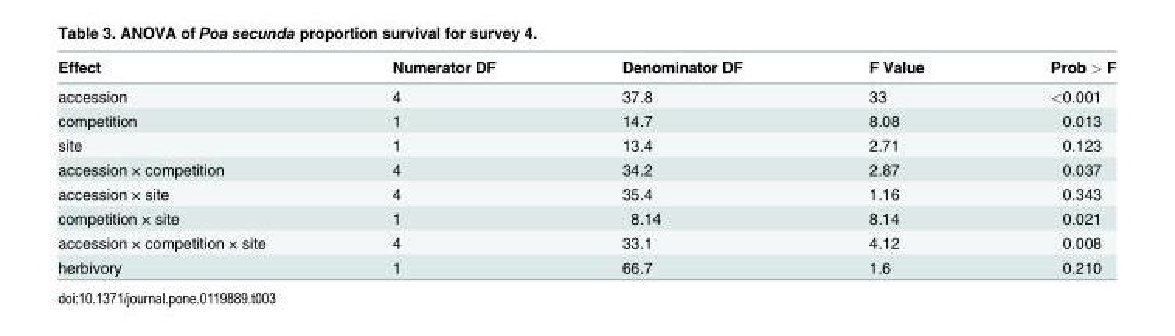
<table><thead><tr><td>Effect</td><td>Numerator DF</td><td>Denominator DF</td><td>F Value</td><td>Prob &gt; F</td></tr></thead><tbody><tr><td>accession</td><td>4</td><td>37.8</td><td>33</td><td>&lt;0.001</td></tr><tr><td>competition</td><td>1</td><td>14.7</td><td>8.08</td><td>0.013</td></tr><tr><td>site</td><td>1</td><td>13.4</td><td>2.71</td><td>0.123</td></tr><tr><td>accession × competition</td><td>4</td><td>34.2</td><td>2.87</td><td>0.037</td></tr><tr><td>accession × site</td><td>4</td><td>35.4</td><td>1.16</td><td>0.343</td></tr><tr><td>competition × site</td><td>1</td><td>8.14</td><td>8.14</td><td>0.021</td></tr><tr><td>accession × competition × site</td><td>4</td><td>33.1</td><td>4.12</td><td>0.008</td></tr><tr><td>herbivory</td><td>1</td><td>66.7</td><td>1.6</td><td>0.210</td></tr></tbody></table>